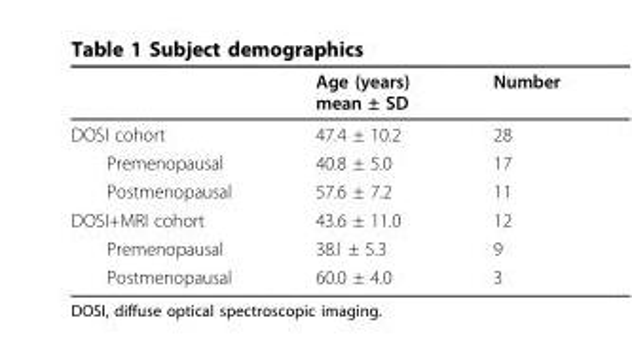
<table><thead><tr><td></td><td>Age (years) mean ± SD</td><td>Number</td></tr></thead><tbody><tr><td>DOSI cohort</td><td>47.4 ± 10.2</td><td>28</td></tr><tr><td>Premenopausal</td><td>40.8 ± 5.0</td><td>17</td></tr><tr><td>Postmenopausal</td><td>57.6 ± 7.2</td><td>11</td></tr><tr><td>DOSI+MRI cohort</td><td>43.6 ± 11.0</td><td>12</td></tr><tr><td>Premenopausal</td><td>38.l ± 5.3</td><td>9</td></tr><tr><td>Postmenopausal</td><td>60.0 ± 4.0</td><td>3</td></tr></tbody></table>